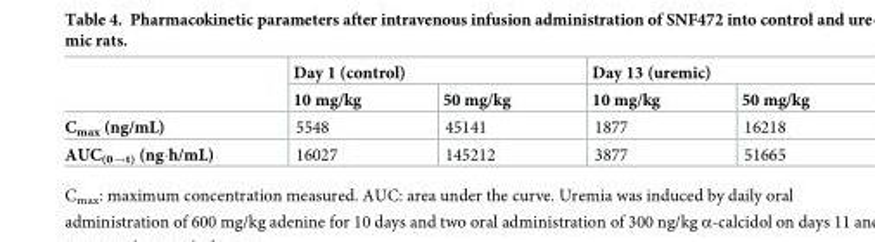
<table><thead><tr><td rowspan="2"></td><td colspan="2">Day 1 (control)</td><td colspan="2">Day 13 (uremic)</td></tr><tr><td>10 mg/kg</td><td>50 mg/kg</td><td>10 mg/kg</td><td>50 mg/kg</td></tr></thead><tbody><tr><td>C<sub>max</sub> (ng/mL)</td><td>5548</td><td>45141</td><td>1877</td><td>16218</td></tr><tr><td>AUC<sub>(0→t)</sub> (ng·h/mL)</td><td>16027</td><td>145212</td><td>3877</td><td>51665</td></tr></tbody></table>